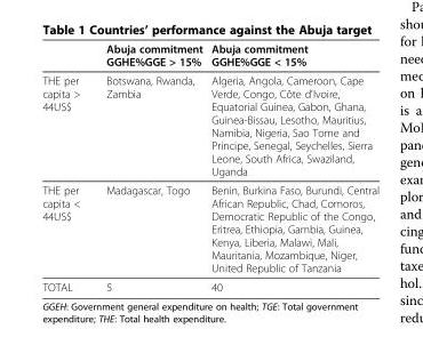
<table><thead><tr><td></td><td>Abuja commitment GGHE%GGE &gt; 15%</td><td>Abuja commitment GGHE%GGE &lt; 15%</td></tr></thead><tbody><tr><td>THE per capita &gt; 44US$</td><td>Botswana, Rwanda, Zambia</td><td>Algeria, Angola, Cameroon, Cape Verde, Congo, Côte d&#x27;Ivoire, Equatorial Guinea, Gabon, Ghana, Guinea-Bissau, Lesotho, Mauritius, Namibia, Nigeria, Sao Tome and Principe, Senegal, Seychelles, Sierra Leone, South Africa, Swaziland, Uganda</td></tr><tr><td>THE per capita &lt; 44US$</td><td>Madagascar, Togo</td><td>Benin, Burkina Faso, Burundi, Central African Republic, Chad, Comoros, Democratic Republic of the Congo, Eritrea, Ethiopia, Gambia, Guinea, Kenya, Liberia, Malawi, Mali, Mauritania, Mozambique, Niger, United Republic of Tanzania</td></tr><tr><td>TOTAL</td><td>5</td><td>40</td></tr></tbody></table>